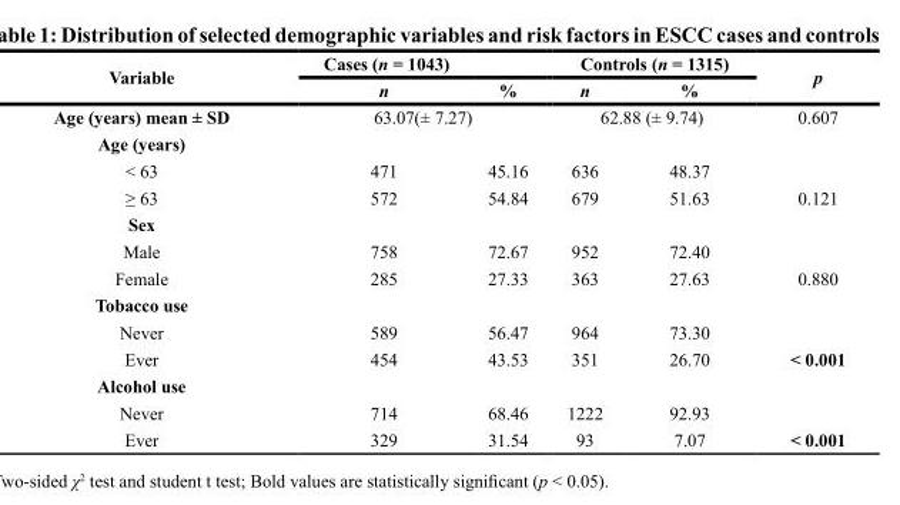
<table><thead><tr><td rowspan="2">Variable</td><td colspan="2">Cases (n = 1043)</td><td colspan="2">Controls (n = 1315)</td><td rowspan="2">p</td></tr><tr><td>n</td><td>%</td><td>n</td><td>%</td></tr></thead><tbody><tr><td>Age (years) mean ± SD</td><td colspan="2">63.07(± 7.27)</td><td colspan="2">62.88 (± 9.74)</td><td>0.607</td></tr><tr><td colspan="6">Age (years)</td></tr><tr><td>&lt; 63</td><td>471</td><td>45.16</td><td>636</td><td>48.37</td><td></td></tr><tr><td>≥ 63</td><td>572</td><td>54.84</td><td>679</td><td>51.63</td><td>0.121</td></tr><tr><td colspan="6">Sex</td></tr><tr><td>Male</td><td>758</td><td>72.67</td><td>952</td><td>72.40</td><td></td></tr><tr><td>Female</td><td>285</td><td>27.33</td><td>363</td><td>27.63</td><td>0.880</td></tr><tr><td colspan="6">Tobacco use</td></tr><tr><td>Never</td><td>589</td><td>56.47</td><td>964</td><td>73.30</td><td></td></tr><tr><td>Ever</td><td>454</td><td>43.53</td><td>351</td><td>26.70</td><td>&lt; 0.001</td></tr><tr><td colspan="6">Alcohol use</td></tr><tr><td>Never</td><td>714</td><td>68.46</td><td>1222</td><td>92.93</td><td></td></tr><tr><td>Ever</td><td>329</td><td>31.54</td><td>93</td><td>7.07</td><td>&lt; 0.001</td></tr></tbody></table>